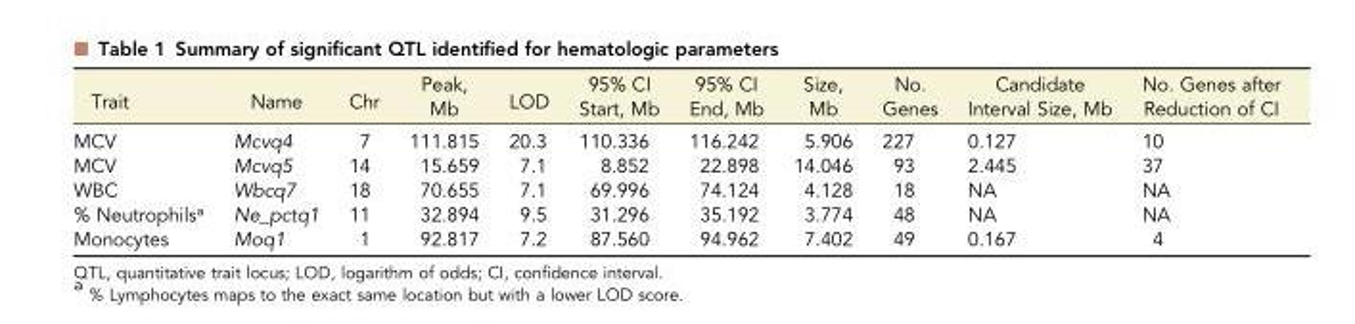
<table><thead><tr><td>Trait</td><td>Name</td><td>Chr</td><td>Peak, Mb</td><td>LOD</td><td>95% CI Start, Mb</td><td>95% CI End, Mb</td><td>Size, Mb</td><td>No. Genes</td><td>Candidate Interval Size, Mb</td><td>No. Genes after Reduction of CI</td></tr></thead><tbody><tr><td>MCV</td><td>Mcvq4</td><td>7</td><td>111.815</td><td>20.3</td><td>110.336</td><td>116.242</td><td>5.906</td><td>227</td><td>0.127</td><td>10</td></tr><tr><td>MCV</td><td>Mcvq5</td><td>14</td><td>15.659</td><td>7.1</td><td>8.852</td><td>22.898</td><td>14.046</td><td>93</td><td>2.445</td><td>37</td></tr><tr><td>WBC</td><td>Wbcq7</td><td>18</td><td>70.655</td><td>7.1</td><td>69.996</td><td>74.124</td><td>4.128</td><td>18</td><td>NA</td><td>NA</td></tr><tr><td>% Neutrophils<sup>a</sup></td><td>Ne_pctq1</td><td>11</td><td>32.894</td><td>9.5</td><td>31.296</td><td>35.192</td><td>3.774</td><td>48</td><td>NA</td><td>NA</td></tr><tr><td>Monocytes</td><td>Moq1</td><td>1</td><td>92.817</td><td>7.2</td><td>87.560</td><td>94.962</td><td>7.402</td><td>49</td><td>0.167</td><td>4</td></tr></tbody></table>